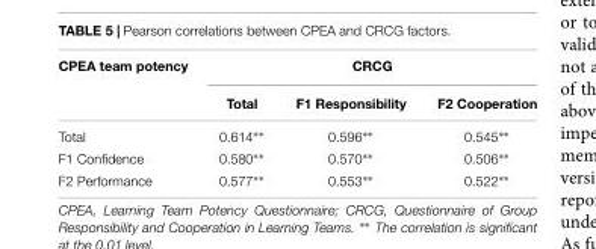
<table><thead><tr><td rowspan="2">CPEA team potency</td><td colspan="3">CRCG</td></tr><tr><td>Total</td><td>F1 Responsibility</td><td>F2 Cooperation</td></tr></thead><tbody><tr><td>Total</td><td>0.614∗∗</td><td>0.596∗∗</td><td>0.545∗∗</td></tr><tr><td>F1 Confidence</td><td>0.580∗∗</td><td>0.570∗∗</td><td>0.506∗∗</td></tr><tr><td>F2 Performance</td><td>0.577∗∗</td><td>0.553∗∗</td><td>0.522∗∗</td></tr></tbody></table>